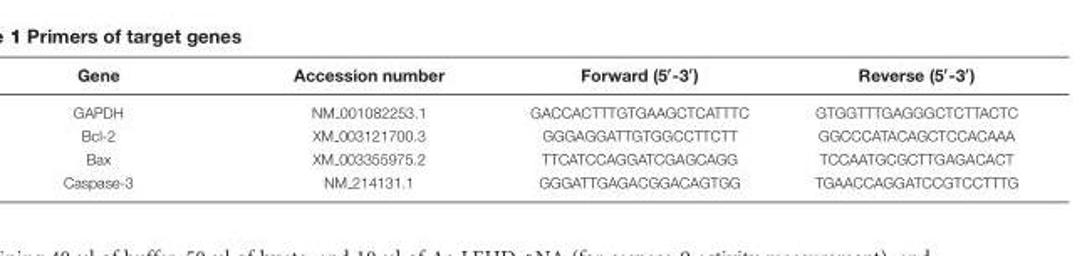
<table><thead><tr><td>Gene</td><td>Accession number</td><td>Forward (5′-3′)</td><td>Reverse (5′-3′)</td></tr></thead><tbody><tr><td>GAPDH</td><td>NM 001082253.1</td><td>GACCACTTTGTGAAGCTCATTTC</td><td>GTGGTTTGAGGGCTCTTACTC</td></tr><tr><td>Bcl-2</td><td>XM 003121700.3</td><td>GGGAGGATTGTGGCCTTCTT</td><td>GGCCCATACAGCTCCACAAA</td></tr><tr><td>Bax</td><td>XM 003355975.2</td><td>TTCATCCAGGATCGAGCAGG</td><td>TCCAATGCGCTTGAGACACT</td></tr><tr><td>Caspase-3</td><td>NM 214131.1</td><td>GGGATTGAGACGGACAGTGG</td><td>TGAACCAGGATCCGTCCTTTG</td></tr></tbody></table>